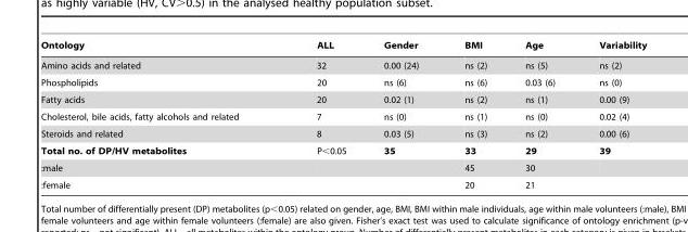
<table><thead><tr><td>Ontology</td><td>ALL</td><td>Gender</td><td>BMI</td><td>Age</td><td>Variability</td></tr></thead><tbody><tr><td>Amino acids and related</td><td>32</td><td>0.00 (24)</td><td>ns (2)</td><td>ns (5)</td><td>ns (2)</td></tr><tr><td>Phospholipids</td><td>20</td><td>ns (6)</td><td>ns (6)</td><td>0.03 (6)</td><td>ns (0)</td></tr><tr><td>Fatty acids</td><td>20</td><td>0.02 (1)</td><td>ns (2)</td><td>ns (1)</td><td>0.00 (9)</td></tr><tr><td>Cholesterol, bile acids, fatty alcohols and related</td><td>7</td><td>ns (0)</td><td>ns (1)</td><td>ns (0)</td><td>0.02 (4)</td></tr><tr><td>Steroids and related</td><td>8</td><td>0.03 (5)</td><td>ns (3)</td><td>ns (2)</td><td>0.00 (6)</td></tr><tr><td>Total no. of DP/HV metabolites</td><td>P&lt;0.05</td><td>35</td><td>33</td><td>29</td><td>39</td></tr><tr><td>:male</td><td></td><td></td><td>45</td><td>30</td><td></td></tr><tr><td>:female</td><td></td><td></td><td>20</td><td>21</td><td></td></tr></tbody></table>